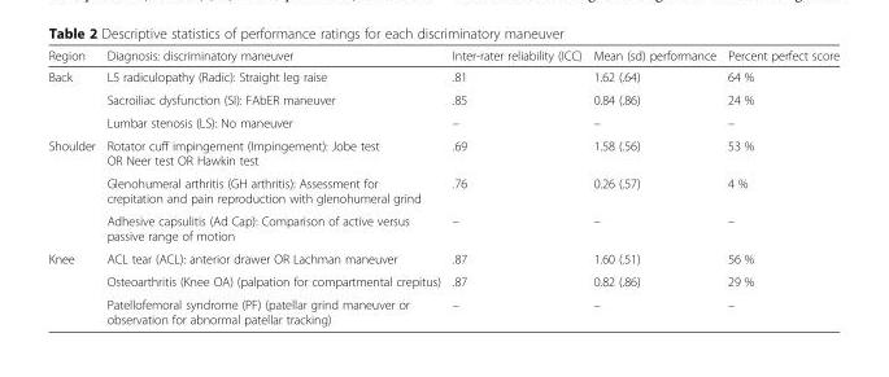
<table><thead><tr><td>Region</td><td>Diagnosis: discriminatory maneuver</td><td>Inter-rater reliability (ICC)</td><td>Mean (sd) performance</td><td>Percent perfect score</td></tr></thead><tbody><tr><td rowspan="3">Back</td><td>L5 radiculopathy (Radic): Straight leg raise</td><td>.81</td><td>1.62 (.64)</td><td>64 %</td></tr><tr><td>Sacroiliac dysfunction (SI): FAbER maneuver</td><td>.85</td><td>0.84 (.86)</td><td>24 %</td></tr><tr><td>Lumbar stenosis (LS): No maneuver</td><td>–</td><td>–</td><td>–</td></tr><tr><td rowspan="3">Shoulder</td><td>Rotator cuff impingement (Impingement): Jobe test OR Neer test OR Hawkin test</td><td>.69</td><td>1.58 (.56)</td><td>53 %</td></tr><tr><td>Glenohumeral arthritis (GH arthritis): Assessment for crepitation and pain reproduction with glenohumeral grind</td><td>.76</td><td>0.26 (.57)</td><td>4 %</td></tr><tr><td>Adhesive capsulitis (Ad Cap): Comparison of active versus passive range of motion</td><td>–</td><td>–</td><td>–</td></tr><tr><td rowspan="3">Knee</td><td>ACL tear (ACL): anterior drawer OR Lachman maneuver</td><td>.87</td><td>1.60 (.51)</td><td>56 %</td></tr><tr><td>Osteoarthritis (Knee OA) (palpation for compartmental crepitus)</td><td>.87</td><td>0.82 (.86)</td><td>29 %</td></tr><tr><td>Patellofemoral syndrome (PF) (patellar grind maneuver or observation for abnormal patellar tracking)</td><td>–</td><td>–</td><td>–</td></tr></tbody></table>